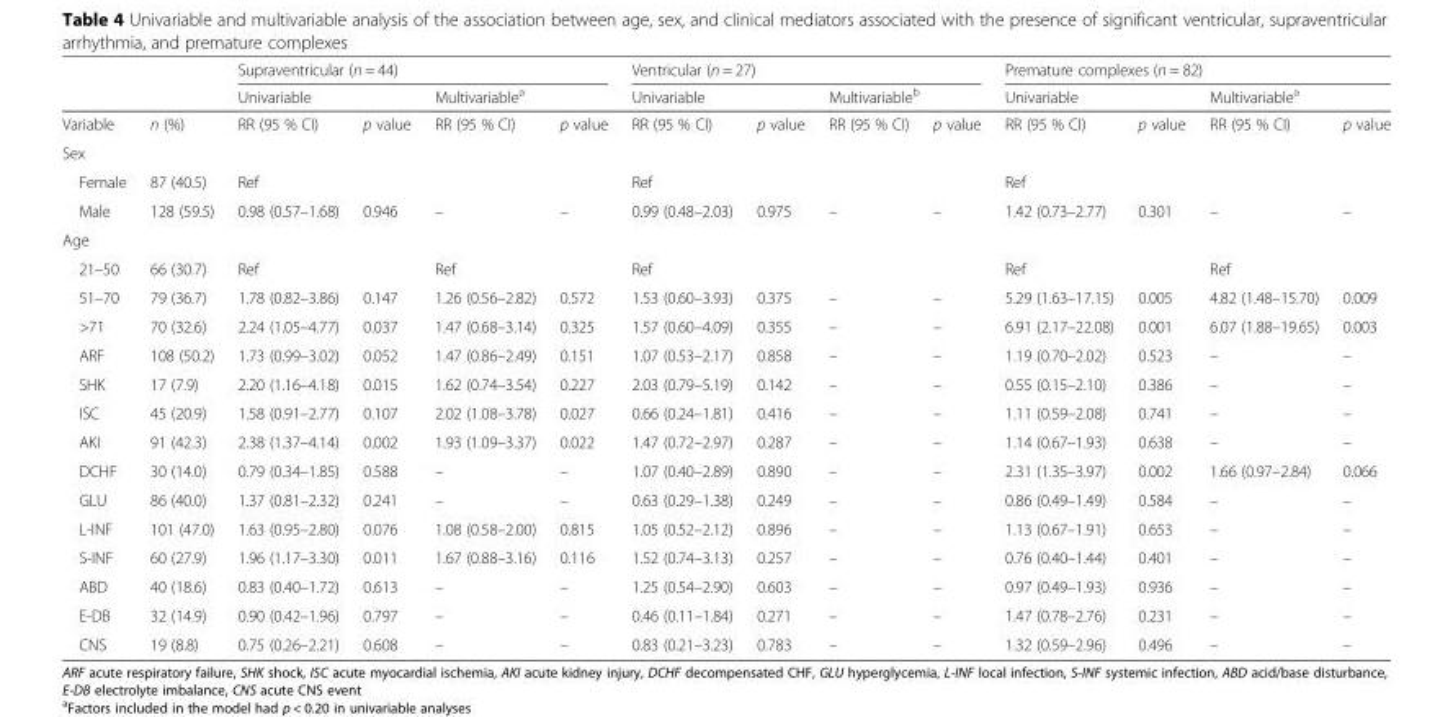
<table><thead><tr><td rowspan="3">Variable</td><td rowspan="3">n (%)</td><td colspan="4">Supraventricular (n = 44)</td><td colspan="4">Ventricular (n = 27)</td><td colspan="4">Premature complexes (n = 82)</td></tr><tr><td colspan="2">Univariable</td><td colspan="2">Multivariable<sup>a</sup></td><td colspan="2">Univariable</td><td colspan="2">Multivariable<sup>b</sup></td><td colspan="2">Univariable</td><td colspan="2">Multivariable<sup>a</sup></td></tr><tr><td>RR (95 % CI)</td><td>p value</td><td>RR (95 % CI)</td><td>p value</td><td>RR (95 % CI)</td><td>p value</td><td>RR (95 % CI)</td><td>p value</td><td>RR (95 % CI)</td><td>p value</td><td>RR (95 % CI)</td><td>p value</td></tr></thead><tbody><tr><td colspan="14">Sex</td></tr><tr><td>Female</td><td>87 (40.5)</td><td>Ref</td><td></td><td></td><td></td><td>Ref</td><td></td><td></td><td></td><td>Ref</td><td></td><td></td><td></td></tr><tr><td>Male</td><td>128 (59.5)</td><td>0.98 (0.57–1.68)</td><td>0.946</td><td>–</td><td>–</td><td>0.99 (0.48–2.03)</td><td>0.975</td><td>–</td><td>–</td><td>1.42 (0.73–2.77)</td><td>0.301</td><td>–</td><td>–</td></tr><tr><td colspan="14">Age</td></tr><tr><td>21–50</td><td>66 (30.7)</td><td>Ref</td><td></td><td>Ref</td><td></td><td>Ref</td><td></td><td></td><td></td><td>Ref</td><td></td><td>Ref</td><td></td></tr><tr><td>51–70</td><td>79 (36.7)</td><td>1.78 (0.82–3.86)</td><td>0.147</td><td>1.26 (0.56–2.82)</td><td>0.572</td><td>1.53 (0.60–3.93)</td><td>0.375</td><td>–</td><td>–</td><td>5.29 (1.63–17.15)</td><td>0.005</td><td>4.82 (1.48–15.70)</td><td>0.009</td></tr><tr><td>&gt;71</td><td>70 (32.6)</td><td>2.24 (1.05–4.77)</td><td>0.037</td><td>1.47 (0.68–3.14)</td><td>0.325</td><td>1.57 (0.60–4.09)</td><td>0.355</td><td>–</td><td>–</td><td>6.91 (2.17–22.08)</td><td>0.001</td><td>6.07 (1.88–19.65)</td><td>0.003</td></tr><tr><td>ARF</td><td>108 (50.2)</td><td>1.73 (0.99–3.02)</td><td>0.052</td><td>1.47 (0.86–2.49)</td><td>0.151</td><td>1.07 (0.53–2.17)</td><td>0.858</td><td>–</td><td>–</td><td>1.19 (0.70–2.02)</td><td>0.523</td><td>–</td><td>–</td></tr><tr><td>SHK</td><td>17 (7.9)</td><td>2.20 (1.16–4.18)</td><td>0.015</td><td>1.62 (0.74–3.54)</td><td>0.227</td><td>2.03 (0.79–5.19)</td><td>0.142</td><td>–</td><td>–</td><td>0.55 (0.15–2.10)</td><td>0.386</td><td>–</td><td>–</td></tr><tr><td>ISC</td><td>45 (20.9)</td><td>1.58 (0.91–2.77)</td><td>0.107</td><td>2.02 (1.08–3.78)</td><td>0.027</td><td>0.66 (0.24–1.81)</td><td>0.416</td><td>–</td><td>–</td><td>1.11 (0.59–2.08)</td><td>0.741</td><td>–</td><td>–</td></tr><tr><td>AKI</td><td>91 (42.3)</td><td>2.38 (1.37–4.14)</td><td>0.002</td><td>1.93 (1.09–3.37)</td><td>0.022</td><td>1.47 (0.72–2.97)</td><td>0.287</td><td>–</td><td>–</td><td>1.14 (0.67–1.93)</td><td>0.638</td><td>–</td><td>–</td></tr><tr><td>DCHF</td><td>30 (14.0)</td><td>0.79 (0.34–1.85)</td><td>0.588</td><td>–</td><td>–</td><td>1.07 (0.40–2.89)</td><td>0.890</td><td>–</td><td>–</td><td>2.31 (1.35–3.97)</td><td>0.002</td><td>1.66 (0.97–2.84)</td><td>0.066</td></tr><tr><td>GLU</td><td>86 (40.0)</td><td>1.37 (0.81–2.32)</td><td>0.241</td><td>–</td><td>–</td><td>0.63 (0.29–1.38)</td><td>0.249</td><td>–</td><td>–</td><td>0.86 (0.49–1.49)</td><td>0.584</td><td>–</td><td>–</td></tr><tr><td>L-INF</td><td>101 (47.0)</td><td>1.63 (0.95–2.80)</td><td>0.076</td><td>1.08 (0.58–2.00)</td><td>0.815</td><td>1.05 (0.52–2.12)</td><td>0.896</td><td>–</td><td>–</td><td>1.13 (0.67–1.91)</td><td>0.653</td><td>–</td><td>–</td></tr><tr><td>S-INF</td><td>60 (27.9)</td><td>1.96 (1.17–3.30)</td><td>0.011</td><td>1.67 (0.88–3.16)</td><td>0.116</td><td>1.52 (0.74–3.13)</td><td>0.257</td><td>–</td><td>–</td><td>0.76 (0.40–1.44)</td><td>0.401</td><td>–</td><td>–</td></tr><tr><td>ABD</td><td>40 (18.6)</td><td>0.83 (0.40–1.72)</td><td>0.613</td><td>–</td><td>–</td><td>1.25 (0.54–2.90)</td><td>0.603</td><td>–</td><td>–</td><td>0.97 (0.49–1.93)</td><td>0.936</td><td>–</td><td>–</td></tr><tr><td>E-DB</td><td>32 (14.9)</td><td>0.90 (0.42–1.96)</td><td>0.797</td><td>–</td><td>–</td><td>0.46 (0.11–1.84)</td><td>0.271</td><td>–</td><td>–</td><td>1.47 (0.78–2.76)</td><td>0.231</td><td>–</td><td>–</td></tr><tr><td>CNS</td><td>19 (8.8)</td><td>0.75 (0.26–2.21)</td><td>0.608</td><td>–</td><td>–</td><td>0.83 (0.21–3.23)</td><td>0.783</td><td>–</td><td>–</td><td>1.32 (0.59–2.96)</td><td>0.496</td><td>–</td><td>–</td></tr></tbody></table>